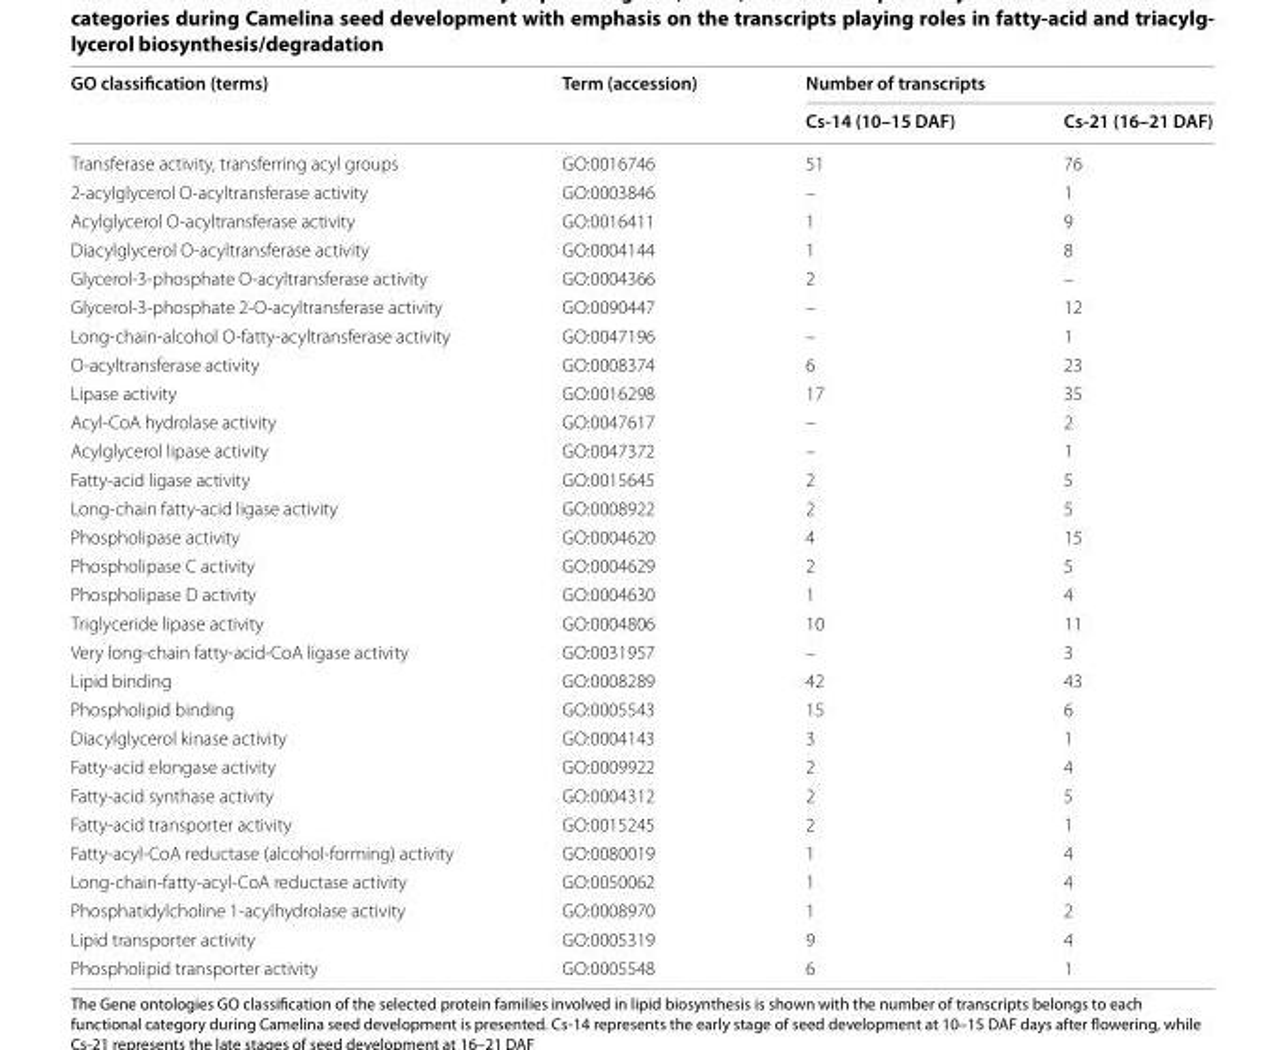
<table><thead><tr><td rowspan="2">GO classification (terms)</td><td rowspan="2">Term (accession)</td><td colspan="2">Number of transcripts</td></tr><tr><td>Cs‑14 (10–15 DAF)</td><td>Cs‑21 (16–21 DAF)</td></tr></thead><tbody><tr><td>Transferase activity, transferring acyl groups</td><td>GO:0016746</td><td>51</td><td>76</td></tr><tr><td>2-acylglycerol O-acyltransferase activity</td><td>GO:0003846</td><td>–</td><td>1</td></tr><tr><td>Acylglycerol O-acyltransferase activity</td><td>GO:0016411</td><td>1</td><td>9</td></tr><tr><td>Diacylglycerol O-acyltransferase activity</td><td>GO:0004144</td><td>1</td><td>8</td></tr><tr><td>Glycerol-3-phosphate O-acyltransferase activity</td><td>GO:0004366</td><td>2</td><td>–</td></tr><tr><td>Glycerol-3-phosphate 2-O-acyltransferase activity</td><td>GO:0090447</td><td>–</td><td>12</td></tr><tr><td>Long-chain-alcohol O-fatty-acyltransferase activity</td><td>GO:0047196</td><td>–</td><td>1</td></tr><tr><td>O-acyltransferase activity</td><td>GO:0008374</td><td>6</td><td>23</td></tr><tr><td>Lipase activity</td><td>GO:0016298</td><td>17</td><td>35</td></tr><tr><td>Acyl-CoA hydrolase activity</td><td>GO:0047617</td><td>–</td><td>2</td></tr><tr><td>Acylglycerol lipase activity</td><td>GO:0047372</td><td>–</td><td>1</td></tr><tr><td>Fatty-acid ligase activity</td><td>GO:0015645</td><td>2</td><td>5</td></tr><tr><td>Long-chain fatty-acid ligase activity</td><td>GO:0008922</td><td>2</td><td>5</td></tr><tr><td>Phospholipase activity</td><td>GO:0004620</td><td>4</td><td>15</td></tr><tr><td>Phospholipase C activity</td><td>GO:0004629</td><td>2</td><td>5</td></tr><tr><td>Phospholipase D activity</td><td>GO:0004630</td><td>1</td><td>4</td></tr><tr><td>Triglyceride lipase activity</td><td>GO:0004806</td><td>10</td><td>11</td></tr><tr><td>Very long-chain fatty-acid-CoA ligase activity</td><td>GO:0031957</td><td>–</td><td>3</td></tr><tr><td>Lipid binding</td><td>GO:0008289</td><td>42</td><td>43</td></tr><tr><td>Phospholipid binding</td><td>GO:0005543</td><td>15</td><td>6</td></tr><tr><td>Diacylglycerol kinase activity</td><td>GO:0004143</td><td>3</td><td>1</td></tr><tr><td>Fatty-acid elongase activity</td><td>GO:0009922</td><td>2</td><td>4</td></tr><tr><td>Fatty-acid synthase activity</td><td>GO:0004312</td><td>2</td><td>5</td></tr><tr><td>Fatty-acid transporter activity</td><td>GO:0015245</td><td>2</td><td>1</td></tr><tr><td>Fatty-acyl-CoA reductase (alcohol-forming) activity</td><td>GO:0080019</td><td>1</td><td>4</td></tr><tr><td>Long-chain-fatty-acyl-CoA reductase activity</td><td>GO:0050062</td><td>1</td><td>4</td></tr><tr><td>Phosphatidylcholine 1-acylhydrolase activity</td><td>GO:0008970</td><td>1</td><td>2</td></tr><tr><td>Lipid transporter activity</td><td>GO:0005319</td><td>9</td><td>4</td></tr><tr><td>Phospholipid transporter activity</td><td>GO:0005548</td><td>6</td><td>1</td></tr></tbody></table>